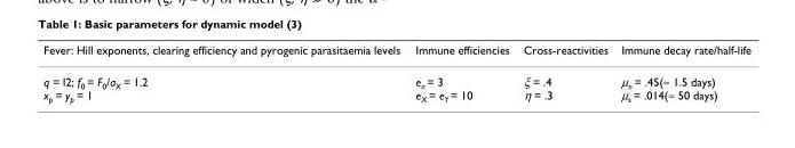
<table><thead><tr><td>Fever: Hill exponents, clearing efficiency and pyrogenic parasitaemia levels</td><td>Immune efficiencies</td><td>Cross-reactivities</td><td>Immune decay rate/half-life</td></tr></thead><tbody><tr><td>q = l2; f<sub>0</sub> = F<sub>0</sub>/a<sub>X</sub> = 1.2 x<sub>p</sub> = y<sub>p</sub> = 1</td><td>e<sub>n</sub> = 3 e<sub>X</sub> = e<sub>Y</sub> = 10</td><td>ξ = .4 η = .3</td><td>μ<sub>n</sub> = .45(≈ 1.5 days) μ<sub>s</sub> = .014(≈ 50 days)</td></tr></tbody></table>